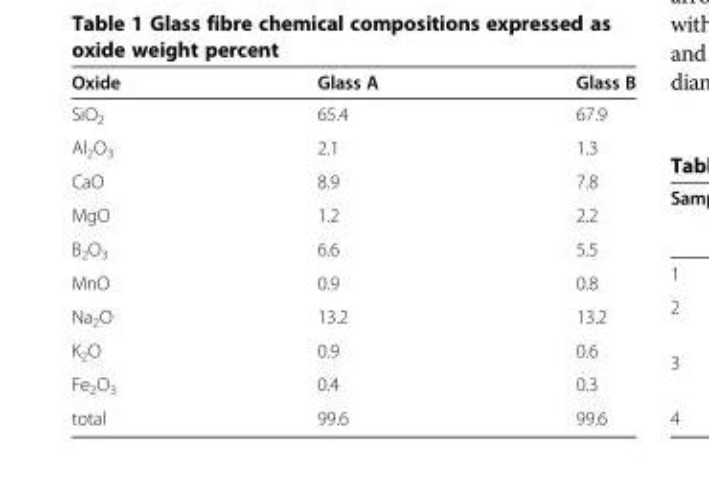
<table><thead><tr><td>Oxide</td><td>Glass A</td><td>Glass B</td></tr></thead><tbody><tr><td>SiO<sub>2</sub></td><td>65.4</td><td>67.9</td></tr><tr><td>Al<sub>2</sub>O<sub>3</sub></td><td>2.1</td><td>1.3</td></tr><tr><td>CaO</td><td>8.9</td><td>7.8</td></tr><tr><td>MgO</td><td>1.2</td><td>2.2</td></tr><tr><td>B<sub>2</sub>O<sub>3</sub></td><td>6.6</td><td>5.5</td></tr><tr><td>MnO</td><td>0.9</td><td>0.8</td></tr><tr><td>Na<sub>2</sub>O</td><td>13.2</td><td>13.2</td></tr><tr><td>K<sub>2</sub>O</td><td>0.9</td><td>0.6</td></tr><tr><td>Fe<sub>2</sub>O<sub>3</sub></td><td>0.4</td><td>0.3</td></tr><tr><td>total</td><td>99.6</td><td>99.6</td></tr></tbody></table>